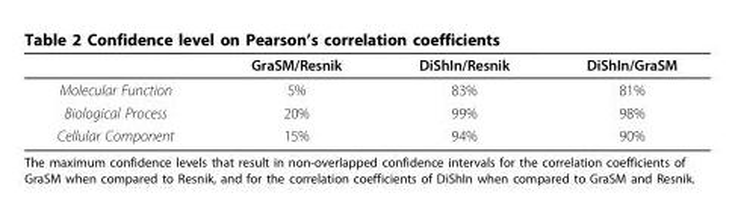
<table><thead><tr><td></td><td>GraSM/Resnik</td><td>DiShIn/Resnik</td><td>DiShIn/GraSM</td></tr></thead><tbody><tr><td>Molecular Function</td><td>5%</td><td>83%</td><td>81%</td></tr><tr><td>Biological Process</td><td>20%</td><td>99%</td><td>98%</td></tr><tr><td>Cellular Component</td><td>15%</td><td>94%</td><td>90%</td></tr></tbody></table>